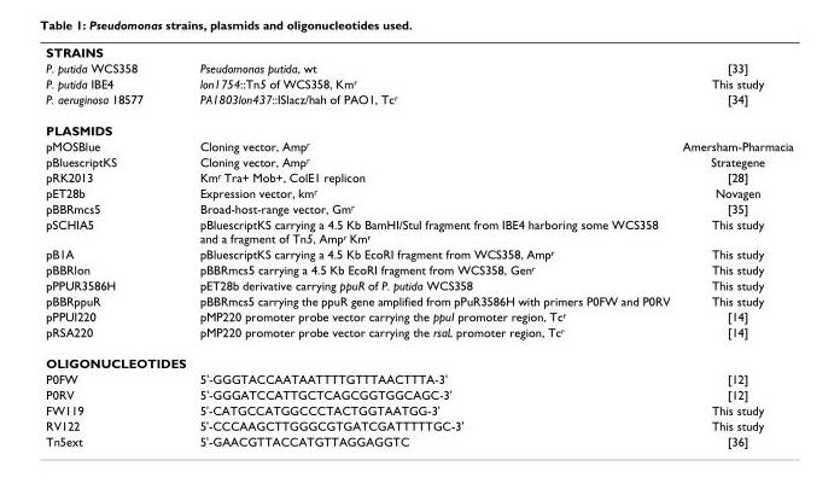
<table><tbody><tr><td colspan="3">STRAINS</td></tr><tr><td>P. putida WCS358</td><td>Pseudomonas putida, wt</td><td>[33]</td></tr><tr><td>P. putida IBE4</td><td>lon1754::Tn5 of WCS358, Km<sup>r</sup></td><td>This study</td></tr><tr><td>P. aeruginosa 18577</td><td>PA1803lon437::ISlacz/hah of PAO1, Tc<sup>r</sup></td><td>[34]</td></tr><tr><td colspan="3">PLASMIDS</td></tr><tr><td>pMOSBlue</td><td>Cloning vector, Amp<sup>r</sup></td><td>Amersham-Pharmacia</td></tr><tr><td>pBluescriptKS</td><td>Cloning vector, Amp<sup>r</sup></td><td>Strategene</td></tr><tr><td>pRK2013</td><td>Km<sup>r</sup> Tra+ Mob+, ColE1 replicon</td><td>[28]</td></tr><tr><td>pET28b</td><td>Expression vector, km<sup>r</sup></td><td>Novagen</td></tr><tr><td>pBBRmcs5</td><td>Broad-host-range vector, Gm<sup>r</sup></td><td>[35]</td></tr><tr><td>pSCHIA5</td><td>pBluescriptKS carrying a 4.5 Kb BamHI/StuI fragment from IBE4 harboring some WCS358 and a fragment of Tn5, Amp<sup>r</sup> Km<sup>r</sup></td><td>This study</td></tr><tr><td>pB1A</td><td>pBluescriptKS carrying a 4.5 Kb EcoRI fragment from WCS358, Amp<sup>r</sup></td><td>This study</td></tr><tr><td>pBBRlon</td><td>pBBRmcs5 carrying a 4.5 Kb EcoRI fragment from WCS358, Gen<sup>r</sup></td><td>This study</td></tr><tr><td>pPPUR3586H</td><td>pET28b derivative carrying ppuR of P. putida WCS358</td><td>This study</td></tr><tr><td>pBBRppuR</td><td>pBBRmcs5 carrying the ppuR gene amplified from pPuR3586H with primers P0FW and P0RV</td><td>This study</td></tr><tr><td>pPPUI220</td><td>pMP220 promoter probe vector carrying the ppuI promoter region, Tc<sup>r</sup></td><td>[14]</td></tr><tr><td>pRSA220</td><td>pMP220 promoter probe vector carrying the rsaL promoter region, Tc<sup>r</sup></td><td>[14]</td></tr><tr><td colspan="3">OLIGONUCLEOTIDES</td></tr><tr><td>P0FW</td><td>5&#x27;-GGGTACCAATAATTTTGTTTAACTTTA-3&#x27;</td><td>[12]</td></tr><tr><td>P0RV</td><td>5&#x27;-GGGATCCATTGCTCAGCGGTGGCAGC-3&#x27;</td><td>[12]</td></tr><tr><td>FW119</td><td>5&#x27;-CATGCCATGGCCCTACTGGTAATGG-3&#x27;</td><td>This study</td></tr><tr><td>RV122</td><td>5&#x27;-CCCAAGCTTGGGCGTGATCGATTTTTGC-3&#x27;</td><td>This study</td></tr><tr><td>Tn5ext</td><td>5&#x27;-GAACGTTACCATGTTAGGAGGTC</td><td>[36]</td></tr></tbody></table>